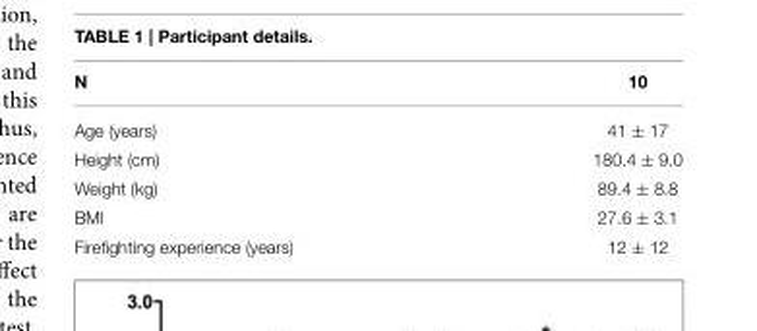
<table><thead><tr><td>N</td><td>10</td></tr></thead><tbody><tr><td>Age (years)</td><td>41 ± 17</td></tr><tr><td>Height (cm)</td><td>180.4 ± 9.0</td></tr><tr><td>Weight (kg)</td><td>89.4 ± 8.8</td></tr><tr><td>BMI</td><td>27.6 ± 3.1</td></tr><tr><td>Firefighting experience (years)</td><td>12 ± 12</td></tr></tbody></table>